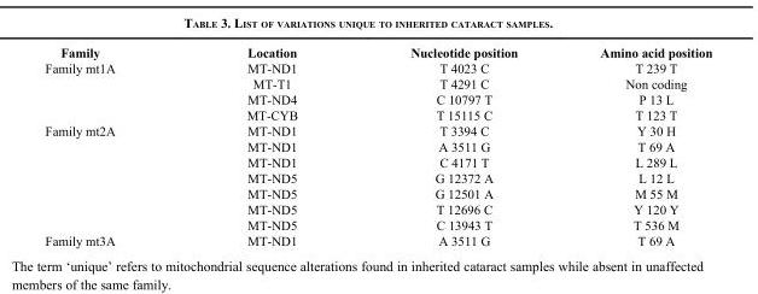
<table><thead><tr><td>Family</td><td>Location</td><td>Nucleotide position</td><td>Amino acid position</td></tr></thead><tbody><tr><td rowspan="4">Family mt1A</td><td>MT-ND1</td><td>T 4023 C</td><td>T 239 T</td></tr><tr><td>MT-T1</td><td>T 4291 C</td><td>Non coding</td></tr><tr><td>MT-ND4</td><td>C 10797 T</td><td>P 13 L</td></tr><tr><td>MT-CYB</td><td>T 15115 C</td><td>T 123 T</td></tr><tr><td rowspan="7">Family mt2A</td><td>MT-ND1</td><td>T 3394 C</td><td>Y 30 H</td></tr><tr><td>MT-ND1</td><td>A 3511 G</td><td>T 69 A</td></tr><tr><td>MT-ND1</td><td>C 4171 T</td><td>L 289 L</td></tr><tr><td>MT-ND5</td><td>G 12372 A</td><td>L 12 L</td></tr><tr><td>MT-ND5</td><td>G 12501 A</td><td>M 55 M</td></tr><tr><td>MT-ND5</td><td>T 12696 C</td><td>Y 120 Y</td></tr><tr><td>MT-ND5</td><td>C 13943 T</td><td>T 536 M</td></tr><tr><td>Family mt3A</td><td>MT-ND1</td><td>A 3511 G</td><td>T 69 A</td></tr></tbody></table>